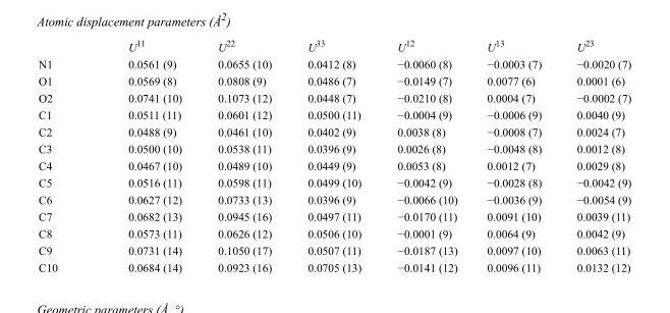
<table><thead><tr><td></td><td>U<sup>11</sup></td><td>U<sup>22</sup></td><td>U<sup>33</sup></td><td>U<sup>12</sup></td><td>U<sup>13</sup></td><td>U<sup>23</sup></td></tr></thead><tbody><tr><td>N1</td><td>0.0561 (9)</td><td>0.0655 (10)</td><td>0.0412 (8)</td><td>−0.0060 (8)</td><td>−0.0003 (7)</td><td>−0.0020 (7)</td></tr><tr><td>O1</td><td>0.0569 (8)</td><td>0.0808 (9)</td><td>0.0486 (7)</td><td>−0.0149 (7)</td><td>0.0077 (6)</td><td>0.0001 (6)</td></tr><tr><td>O2</td><td>0.0741 (10)</td><td>0.1073 (12)</td><td>0.0448 (7)</td><td>−0.0210 (8)</td><td>0.0004 (7)</td><td>−0.0002 (7)</td></tr><tr><td>C1</td><td>0.0511 (11)</td><td>0.0601 (12)</td><td>0.0500 (11)</td><td>−0.0004 (9)</td><td>−0.0006 (9)</td><td>0.0040 (9)</td></tr><tr><td>C2</td><td>0.0488 (9)</td><td>0.0461 (10)</td><td>0.0402 (9)</td><td>0.0038 (8)</td><td>−0.0008 (7)</td><td>0.0024 (7)</td></tr><tr><td>C3</td><td>0.0500 (10)</td><td>0.0538 (11)</td><td>0.0396 (9)</td><td>0.0026 (8)</td><td>−0.0048 (8)</td><td>0.0012 (8)</td></tr><tr><td>C4</td><td>0.0467 (10)</td><td>0.0489 (10)</td><td>0.0449 (9)</td><td>0.0053 (8)</td><td>0.0012 (7)</td><td>0.0029 (8)</td></tr><tr><td>C5</td><td>0.0516 (11)</td><td>0.0598 (11)</td><td>0.0499 (10)</td><td>−0.0042 (9)</td><td>−0.0028 (8)</td><td>−0.0042 (9)</td></tr><tr><td>C6</td><td>0.0627 (12)</td><td>0.0733 (13)</td><td>0.0396 (9)</td><td>−0.0066 (10)</td><td>−0.0036 (9)</td><td>−0.0054 (9)</td></tr><tr><td>C7</td><td>0.0682 (13)</td><td>0.0945 (16)</td><td>0.0497 (11)</td><td>−0.0170 (11)</td><td>0.0091 (10)</td><td>0.0039 (11)</td></tr><tr><td>C8</td><td>0.0573 (11)</td><td>0.0626 (12)</td><td>0.0506 (10)</td><td>−0.0001 (9)</td><td>0.0064 (9)</td><td>0.0042 (9)</td></tr><tr><td>C9</td><td>0.0731 (14)</td><td>0.1050 (17)</td><td>0.0507 (11)</td><td>−0.0187 (13)</td><td>0.0097 (10)</td><td>0.0063 (11)</td></tr><tr><td>C10</td><td>0.0684 (14)</td><td>0.0923 (16)</td><td>0.0705 (13)</td><td>−0.0141 (12)</td><td>0.0096 (11)</td><td>0.0132 (12)</td></tr></tbody></table>